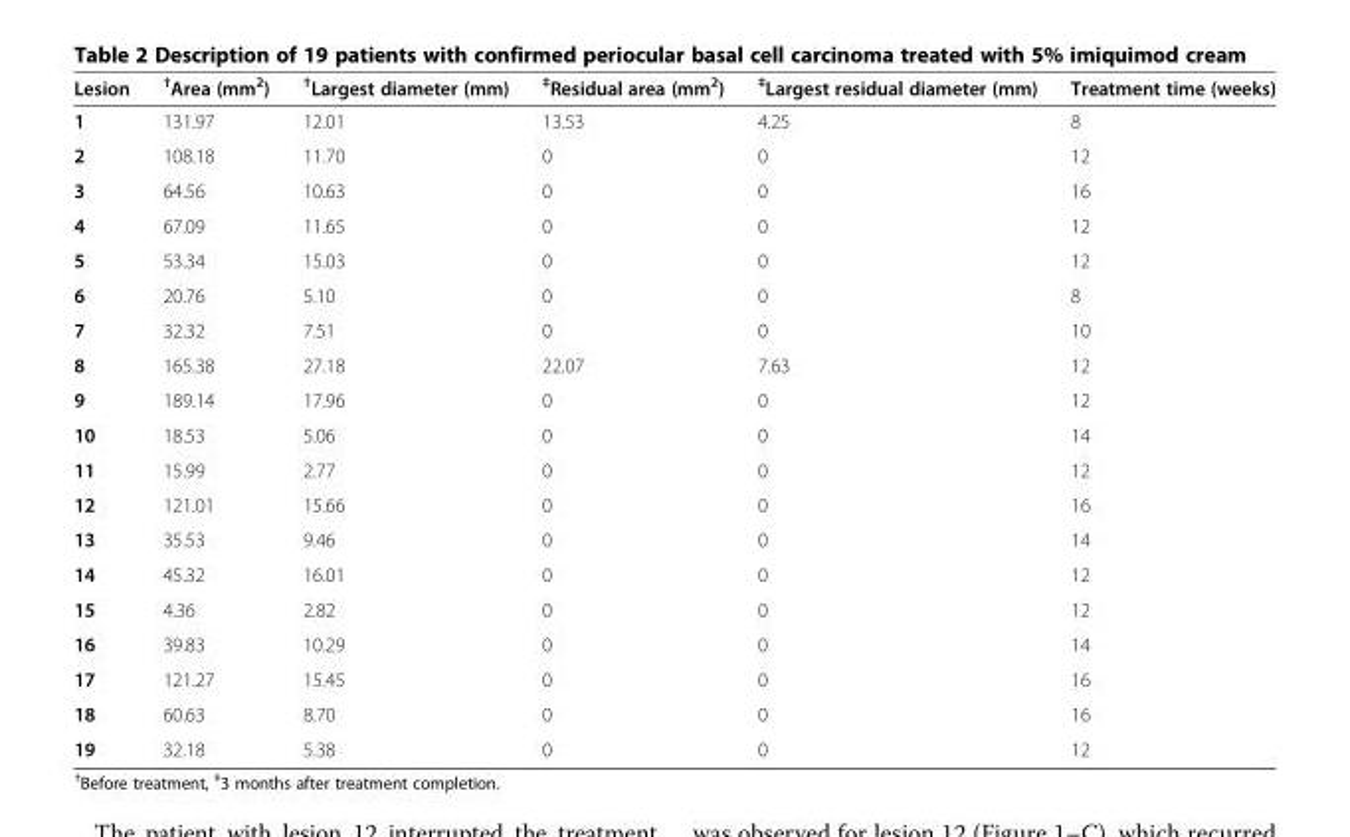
<table><thead><tr><td>Lesion</td><td><sup>†</sup>Area (mm<sup>2</sup>)</td><td><sup>†</sup>Largest diameter (mm)</td><td><sup>‡</sup>Residual area (mm<sup>2</sup>)</td><td><sup>‡</sup>Largest residual diameter (mm)</td><td>Treatment time (weeks)</td></tr></thead><tbody><tr><td>1</td><td>131.97</td><td>12.01</td><td>13.53</td><td>4.25</td><td>8</td></tr><tr><td>2</td><td>108.18</td><td>11.70</td><td>0</td><td>0</td><td>12</td></tr><tr><td>3</td><td>64.56</td><td>10.63</td><td>0</td><td>0</td><td>16</td></tr><tr><td>4</td><td>67.09</td><td>11.65</td><td>0</td><td>0</td><td>12</td></tr><tr><td>5</td><td>53.34</td><td>15.03</td><td>0</td><td>0</td><td>12</td></tr><tr><td>6</td><td>20.76</td><td>5.10</td><td>0</td><td>0</td><td>8</td></tr><tr><td>7</td><td>32.32</td><td>7.51</td><td>0</td><td>0</td><td>10</td></tr><tr><td>8</td><td>165.38</td><td>27.18</td><td>22.07</td><td>7.63</td><td>12</td></tr><tr><td>9</td><td>189.14</td><td>17.96</td><td>0</td><td>0</td><td>12</td></tr><tr><td>10</td><td>18.53</td><td>5.06</td><td>0</td><td>0</td><td>14</td></tr><tr><td>11</td><td>15.99</td><td>2.77</td><td>0</td><td>0</td><td>12</td></tr><tr><td>12</td><td>121.01</td><td>15.66</td><td>0</td><td>0</td><td>16</td></tr><tr><td>13</td><td>35.53</td><td>9.46</td><td>0</td><td>0</td><td>14</td></tr><tr><td>14</td><td>45.32</td><td>16.01</td><td>0</td><td>0</td><td>12</td></tr><tr><td>15</td><td>4.36</td><td>2.82</td><td>0</td><td>0</td><td>12</td></tr><tr><td>16</td><td>39.83</td><td>10.29</td><td>0</td><td>0</td><td>14</td></tr><tr><td>17</td><td>121.27</td><td>15.45</td><td>0</td><td>0</td><td>16</td></tr><tr><td>18</td><td>60.63</td><td>8.70</td><td>0</td><td>0</td><td>16</td></tr><tr><td>19</td><td>32.18</td><td>5.38</td><td>0</td><td>0</td><td>12</td></tr></tbody></table>